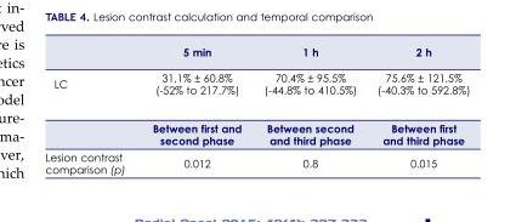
<table><thead><tr><td></td><td>5 min</td><td>1 h</td><td>2 h</td></tr></thead><tbody><tr><td rowspan="2">LC</td><td>31,1% ± 60.8% (-52% to 217.7%)</td><td>70.4% ± 95.5% (-44.8% to 410.5%)</td><td>75.6% ± 121.5% (-40.3% to 592.8%)</td></tr><tr><td>Between first and second phase</td><td>Between second and third phase</td><td>Between first and third phase</td></tr><tr><td>Lesion contrast comparison (p)</td><td>0.012</td><td>0.8</td><td>0.015</td></tr></tbody></table>